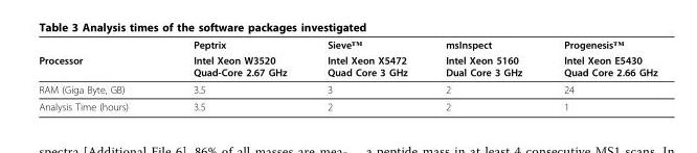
<table><thead><tr><td rowspan="2">Processor</td><td rowspan="2">Peptrix Intel Xeon W3520 Quad-Core 2.67 GHz</td><td rowspan="2">Sieve™ Intel Xeon X5472 Quad Core 3 GHz</td><td rowspan="2">msInspect Intel Xeon 5160 Dual Core 3 GHz</td><td rowspan="2">Progenesis™ Intel Xeon E5430 Quad Core 2.66 GHz</td></tr><tr></tr></thead><tbody><tr><td>RAM (Giga Byte, GB)</td><td>3.5</td><td>3</td><td>2</td><td>24</td></tr><tr><td>Analysis Time (hours)</td><td>3.5</td><td>2</td><td>2</td><td>1</td></tr></tbody></table>